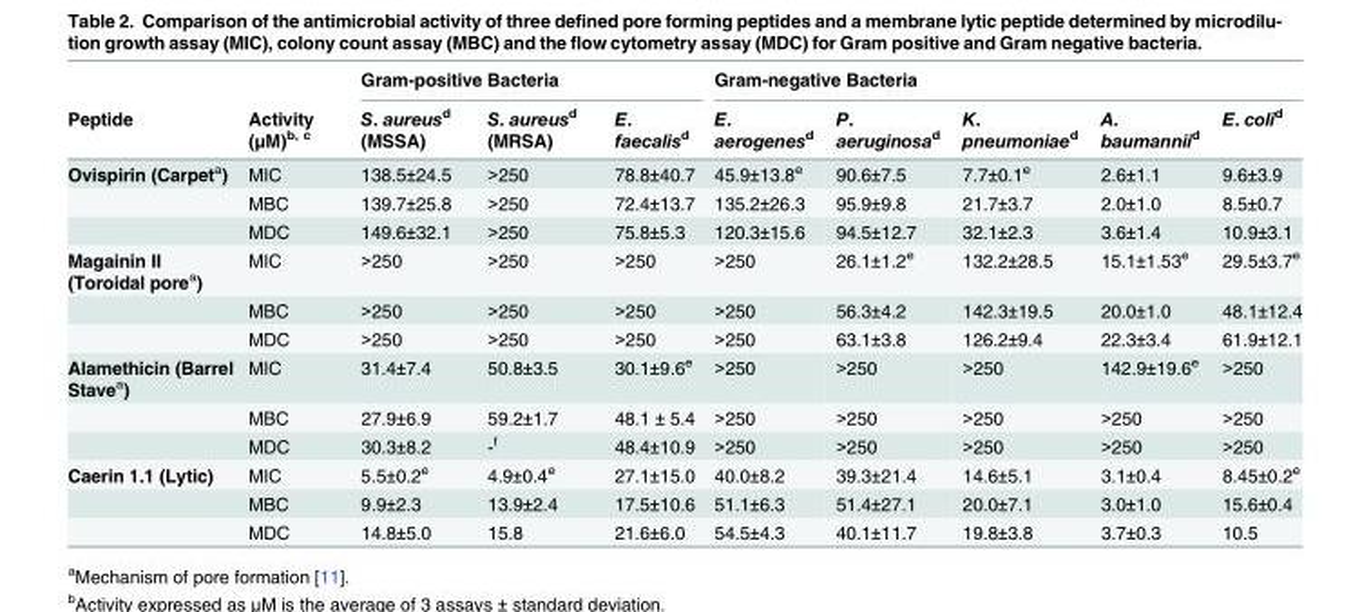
<table><thead><tr><td rowspan="2">Peptide</td><td rowspan="2">Activity (μM)<sup>b, c</sup></td><td colspan="3">Gram-positive Bacteria</td><td colspan="5">Gram-negative Bacteria</td></tr><tr><td>S. aureus<sup>d</sup> (MSSA)</td><td>S. aureus<sup>d</sup> (MRSA)</td><td>E. faecalis<sup>d</sup></td><td>E. aerogenes<sup>d</sup></td><td>P. aeruginosa<sup>d</sup></td><td>K. pneumoniae<sup>d</sup></td><td>A. baumannii<sup>d</sup></td><td>E. coli<sup>d</sup></td></tr></thead><tbody><tr><td rowspan="3">Ovispirin (Carpet<sup>a</sup>)</td><td>MIC</td><td>138.5±24.5</td><td>&gt;250</td><td>78.8±40.7</td><td>45.9±13.8<sup>e</sup></td><td>90.6±7.5</td><td>7.7±0.1<sup>e</sup></td><td>2.6±1.1</td><td>9.6±3.9</td></tr><tr><td>MBC</td><td>139.7±25.8</td><td>&gt;250</td><td>72.4±13.7</td><td>135.2±26.3</td><td>95.9±9.8</td><td>21.7±3.7</td><td>2.0±1.0</td><td>8.5±0.7</td></tr><tr><td>MDC</td><td>149.6±32.1</td><td>&gt;250</td><td>75.8±5.3</td><td>120.3±15.6</td><td>94.5±12.7</td><td>32.1±2.3</td><td>3.6±1.4</td><td>10.9±3.1</td></tr><tr><td rowspan="3">Magainin II (Toroidal pore<sup>a</sup>)</td><td>MIC</td><td>&gt;250</td><td>&gt;250</td><td>&gt;250</td><td>&gt;250</td><td>26.1±1.2<sup>e</sup></td><td>132.2±28.5</td><td>15.1±1.53<sup>e</sup></td><td>29.5±3.7<sup>e</sup></td></tr><tr><td>MBC</td><td>&gt;250</td><td>&gt;250</td><td>&gt;250</td><td>&gt;250</td><td>56.3±4.2</td><td>142.3±19.5</td><td>20.0±1.0</td><td>48.1±12.4</td></tr><tr><td>MDC</td><td>&gt;250</td><td>&gt;250</td><td>&gt;250</td><td>&gt;250</td><td>63.1±3.8</td><td>126.2±9.4</td><td>22.3±3.4</td><td>61.9±12.1</td></tr><tr><td rowspan="3">Alamethicin (Barrel Stave<sup>a</sup>)</td><td>MIC</td><td>31.4±7.4</td><td>50.8±3.5</td><td>30.1±9.6<sup>e</sup></td><td>&gt;250</td><td>&gt;250</td><td>&gt;250</td><td>142.9±19.6<sup>e</sup></td><td>&gt;250</td></tr><tr><td>MBC</td><td>27.9±6.9</td><td>59.2±1.7</td><td>48.1 ± 5.4</td><td>&gt;250</td><td>&gt;250</td><td>&gt;250</td><td>&gt;250</td><td>&gt;250</td></tr><tr><td>MDC</td><td>30.3±8.2</td><td>-<sup>f</sup></td><td>48.4±10.9</td><td>&gt;250</td><td>&gt;250</td><td>&gt;250</td><td>&gt;250</td><td>&gt;250</td></tr><tr><td rowspan="3">Caerin 1.1 (Lytic)</td><td>MIC</td><td>5.5±0.2<sup>e</sup></td><td>4.9±0.4<sup>e</sup></td><td>27.1±15.0</td><td>40.0±8.2</td><td>39.3±21.4</td><td>14.6±5.1</td><td>3.1±0.4</td><td>8.45±0.2<sup>e</sup></td></tr><tr><td>MBC</td><td>9.9±2.3</td><td>13.9±2.4</td><td>17.5±10.6</td><td>51.1±6.3</td><td>51.4±27.1</td><td>20.0±7.1</td><td>3.0±1.0</td><td>15.6±0.4</td></tr><tr><td>MDC</td><td>14.8±5.0</td><td>15.8</td><td>21.6±6.0</td><td>54.5±4.3</td><td>40.1±11.7</td><td>19.8±3.8</td><td>3.7±0.3</td><td>10.5</td></tr></tbody></table>